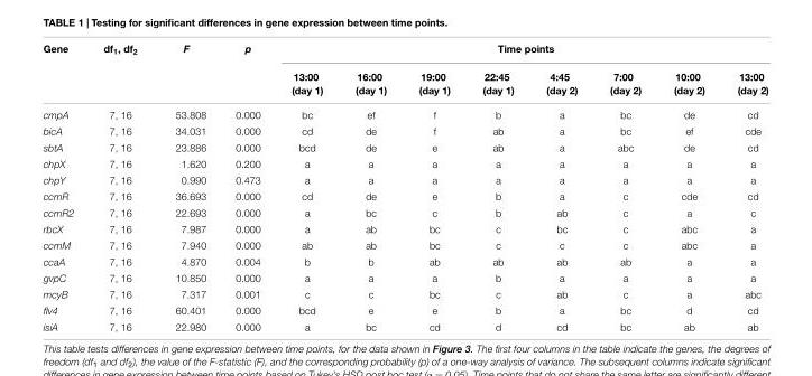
<table><thead><tr><td rowspan="2">Gene</td><td rowspan="2">df<sub>1</sub>, df<sub>2</sub></td><td rowspan="2">F</td><td rowspan="2">p</td><td colspan="8">Time points</td></tr><tr><td>13:00 (day 1)</td><td>16:00 (day 1)</td><td>19:00 (day 1)</td><td>22:45 (day 1)</td><td>4:45 (day 2)</td><td>7:00 (day 2)</td><td>10:00 (day 2)</td><td>13:00 (day 2)</td></tr></thead><tbody><tr><td>cmpA</td><td>7, 16</td><td>53.808</td><td>0.000</td><td>bc</td><td>ef</td><td>f</td><td>b</td><td>a</td><td>bc</td><td>de</td><td>cd</td></tr><tr><td>bicA</td><td>7, 16</td><td>34.031</td><td>0.000</td><td>cd</td><td>de</td><td>f</td><td>ab</td><td>a</td><td>bc</td><td>ef</td><td>cde</td></tr><tr><td>sbtA</td><td>7, 16</td><td>23.886</td><td>0.000</td><td>bcd</td><td>de</td><td>e</td><td>ab</td><td>a</td><td>abc</td><td>de</td><td>cd</td></tr><tr><td>chpX</td><td>7, 16</td><td>1.620</td><td>0.200</td><td>a</td><td>a</td><td>a</td><td>a</td><td>a</td><td>a</td><td>a</td><td>a</td></tr><tr><td>chpY</td><td>7, 16</td><td>0.990</td><td>0.473</td><td>a</td><td>a</td><td>a</td><td>a</td><td>a</td><td>a</td><td>a</td><td>a</td></tr><tr><td>ccmR</td><td>7, 16</td><td>36.693</td><td>0.000</td><td>cd</td><td>de</td><td>e</td><td>b</td><td>a</td><td>c</td><td>cde</td><td>cd</td></tr><tr><td>ccmR2</td><td>7, 16</td><td>22.693</td><td>0.000</td><td>a</td><td>bc</td><td>c</td><td>b</td><td>ab</td><td>c</td><td>a</td><td>c</td></tr><tr><td>rbcX</td><td>7, 16</td><td>7.987</td><td>0.000</td><td>a</td><td>ab</td><td>bc</td><td>c</td><td>bc</td><td>c</td><td>abc</td><td>a</td></tr><tr><td>ccmM</td><td>7, 16</td><td>7.940</td><td>0.000</td><td>ab</td><td>ab</td><td>bc</td><td>c</td><td>c</td><td>c</td><td>abc</td><td>a</td></tr><tr><td>ccaA</td><td>7, 16</td><td>4.870</td><td>0.004</td><td>b</td><td>b</td><td>ab</td><td>ab</td><td>ab</td><td>ab</td><td>a</td><td>a</td></tr><tr><td>gvpC</td><td>7, 16</td><td>10.850</td><td>0.000</td><td>a</td><td>a</td><td>a</td><td>b</td><td>a</td><td>a</td><td>a</td><td>a</td></tr><tr><td>mcyB</td><td>7, 16</td><td>7.317</td><td>0.001</td><td>c</td><td>c</td><td>bc</td><td>c</td><td>ab</td><td>c</td><td>a</td><td>abc</td></tr><tr><td>flv4</td><td>7, 16</td><td>60.401</td><td>0.000</td><td>bcd</td><td>e</td><td>e</td><td>b</td><td>a</td><td>bc</td><td>d</td><td>cd</td></tr><tr><td>isiA</td><td>7, 16</td><td>22.980</td><td>0.000</td><td>a</td><td>bc</td><td>cd</td><td>d</td><td>cd</td><td>bc</td><td>ab</td><td>ab</td></tr></tbody></table>